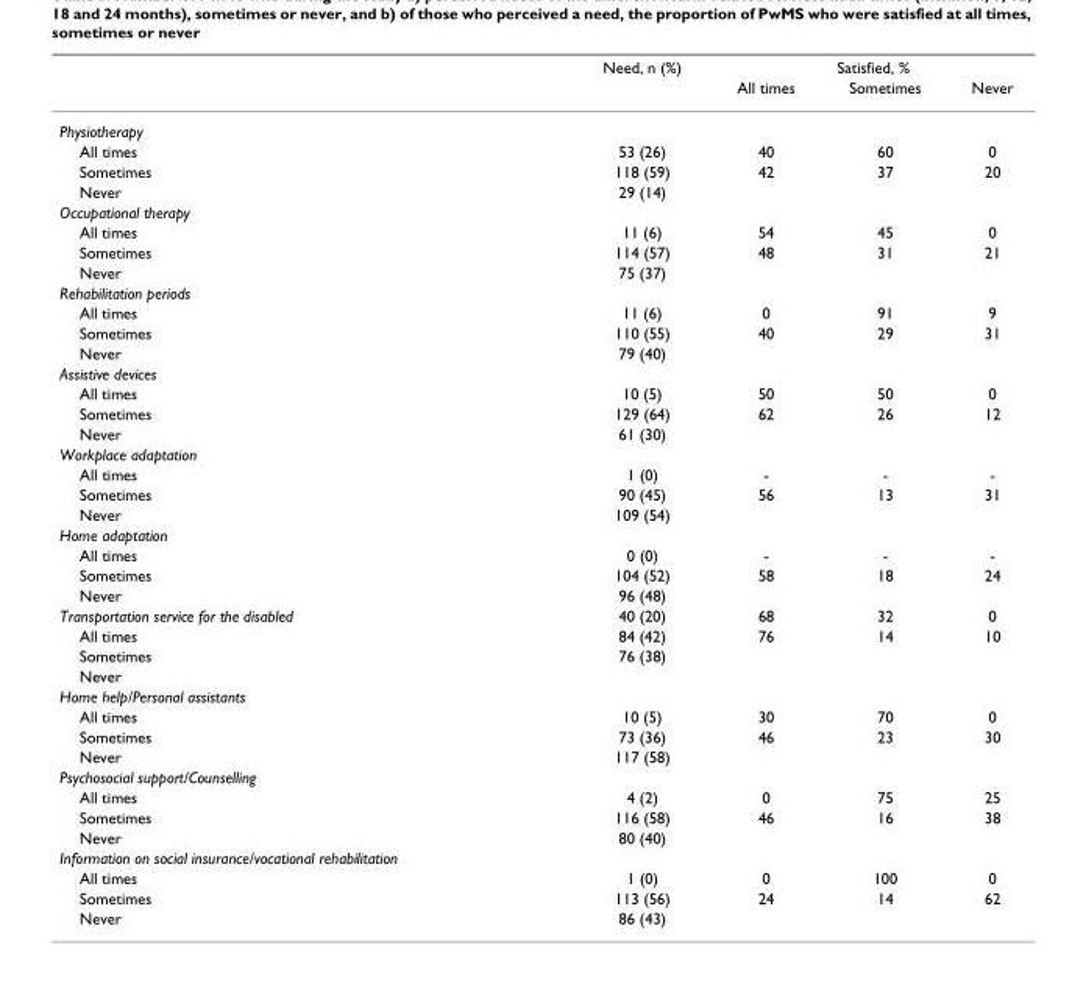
<table><thead><tr><td rowspan="2"></td><td rowspan="2">Need, n (%)</td><td colspan="3">Satisfied, %</td></tr><tr><td>All times</td><td>Sometimes</td><td>Never</td></tr></thead><tbody><tr><td colspan="5">Physiotherapy</td></tr><tr><td>All times</td><td>53 (26)</td><td>40</td><td>60</td><td>0</td></tr><tr><td>Sometimes</td><td>118 (59)</td><td>42</td><td>37</td><td>20</td></tr><tr><td>Never</td><td>29 (14)</td><td></td><td></td><td></td></tr><tr><td colspan="5">Occupational therapy</td></tr><tr><td>All times</td><td>11 (6)</td><td>54</td><td>45</td><td>0</td></tr><tr><td>Sometimes</td><td>114 (57)</td><td>48</td><td>31</td><td>21</td></tr><tr><td>Never</td><td>75 (37)</td><td></td><td></td><td></td></tr><tr><td colspan="5">Rehabilitation periods</td></tr><tr><td>All times</td><td>11 (6)</td><td>0</td><td>91</td><td>9</td></tr><tr><td>Sometimes</td><td>110 (55)</td><td>40</td><td>29</td><td>31</td></tr><tr><td>Never</td><td>79 (40)</td><td></td><td></td><td></td></tr><tr><td colspan="5">Assistive devices</td></tr><tr><td>All times</td><td>10 (5)</td><td>50</td><td>50</td><td>0</td></tr><tr><td>Sometimes</td><td>129 (64)</td><td>62</td><td>26</td><td>12</td></tr><tr><td>Never</td><td>61 (30)</td><td></td><td></td><td></td></tr><tr><td colspan="5">Workplace adaptation</td></tr><tr><td>All times</td><td>1 (0)</td><td>-</td><td>-</td><td>-</td></tr><tr><td>Sometimes</td><td>90 (45)</td><td>56</td><td>13</td><td>31</td></tr><tr><td>Never</td><td>109 (54)</td><td></td><td></td><td></td></tr><tr><td colspan="5">Home adaptation</td></tr><tr><td>All times</td><td>0 (0)</td><td>-</td><td>-</td><td>-</td></tr><tr><td>Sometimes</td><td>104 (52)</td><td>58</td><td>18</td><td>24</td></tr><tr><td>Never</td><td>96 (48)</td><td></td><td></td><td></td></tr><tr><td>Transportation service for the disabled</td><td>40 (20)</td><td>68</td><td>32</td><td>0</td></tr><tr><td>All times</td><td>84 (42)</td><td>76</td><td>14</td><td>10</td></tr><tr><td>Sometimes</td><td>76 (38)</td><td></td><td></td><td></td></tr><tr><td colspan="5">Never</td></tr><tr><td colspan="5">Home help/Personal assistants</td></tr><tr><td>All times</td><td>10 (5)</td><td>30</td><td>70</td><td>0</td></tr><tr><td>Sometimes</td><td>73 (36)</td><td>46</td><td>23</td><td>30</td></tr><tr><td>Never</td><td>117 (58)</td><td></td><td></td><td></td></tr><tr><td colspan="5">Psychosocial support/Counselling</td></tr><tr><td>All times</td><td>4 (2)</td><td>0</td><td>75</td><td>25</td></tr><tr><td>Sometimes</td><td>116 (58)</td><td>46</td><td>16</td><td>38</td></tr><tr><td>Never</td><td>80 (40)</td><td></td><td></td><td></td></tr><tr><td colspan="5">Information on social insurance/vocational rehabilitation</td></tr><tr><td>All times</td><td>1 (0)</td><td>0</td><td>100</td><td>0</td></tr><tr><td>Sometimes</td><td>113 (56)</td><td>24</td><td>14</td><td>62</td></tr><tr><td>Never</td><td>86 (43)</td><td></td><td></td><td></td></tr></tbody></table>